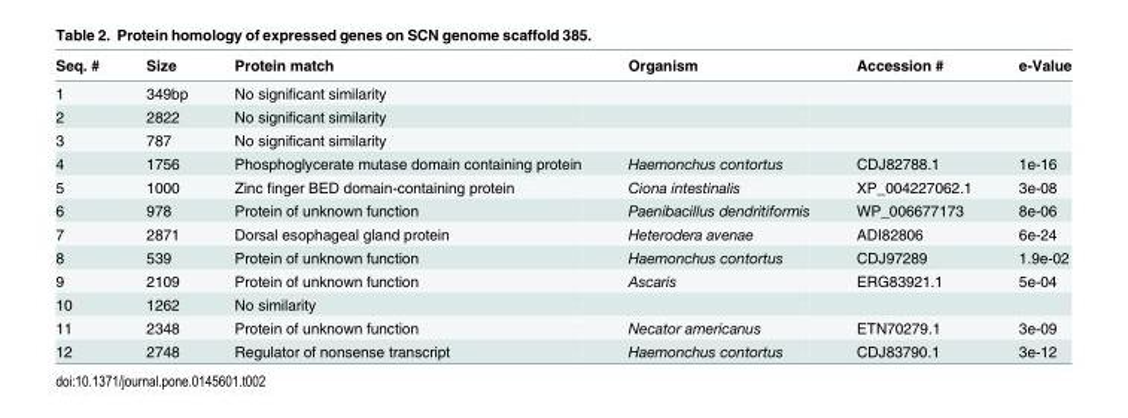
<table><thead><tr><td>Seq. #</td><td>Size</td><td>Protein match</td><td>Organism</td><td>Accession #</td><td>e-Value</td></tr></thead><tbody><tr><td>1</td><td>349bp</td><td>No significant similarity</td><td></td><td></td><td></td></tr><tr><td>2</td><td>2822</td><td>No significant similarity</td><td></td><td></td><td></td></tr><tr><td>3</td><td>787</td><td>No significant similarity</td><td></td><td></td><td></td></tr><tr><td>4</td><td>1756</td><td>Phosphoglycerate mutase domain containing protein</td><td>Haemonchus contortus</td><td>CDJ82788.1</td><td>1e-16</td></tr><tr><td>5</td><td>1000</td><td>Zinc finger BED domain-containing protein</td><td>Ciona intestinalis</td><td>XP_004227062.1</td><td>3e-08</td></tr><tr><td>6</td><td>978</td><td>Protein of unknown function</td><td>Paenibacillus dendritiformis</td><td>WP_006677173</td><td>8e-06</td></tr><tr><td>7</td><td>2871</td><td>Dorsal esophageal gland protein</td><td>Heterodera avenae</td><td>ADI82806</td><td>6e-24</td></tr><tr><td>8</td><td>539</td><td>Protein of unknown function</td><td>Haemonchus contortus</td><td>CDJ97289</td><td>1.9e-02</td></tr><tr><td>9</td><td>2109</td><td>Protein of unknown function</td><td>Ascaris</td><td>ERG83921.1</td><td>5e-04</td></tr><tr><td>10</td><td>1262</td><td>No similarity</td><td></td><td></td><td></td></tr><tr><td>11</td><td>2348</td><td>Protein of unknown function</td><td>Necator americanus</td><td>ETN70279.1</td><td>3e-09</td></tr><tr><td>12</td><td>2748</td><td>Regulator of nonsense transcript</td><td>Haemonchus contortus</td><td>CDJ83790.1</td><td>3e-12</td></tr></tbody></table>